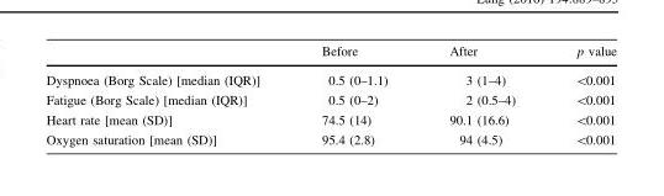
<table><thead><tr><td></td><td>Before</td><td>After</td><td>p value</td></tr></thead><tbody><tr><td>Dyspnoea (Borg Scale) [median (IQR)]</td><td>0.5 (0–1.1)</td><td>3 (1–4)</td><td>&lt;0.001</td></tr><tr><td>Fatigue (Borg Scale) [median (IQR)]</td><td>0.5 (0–2)</td><td>2 (0.5–4)</td><td>&lt;0.001</td></tr><tr><td>Heart rate [mean (SD)]</td><td>74.5 (14)</td><td>90.1 (16.6)</td><td>&lt;0.001</td></tr><tr><td>Oxygen saturation [mean (SD)]</td><td>95.4 (2.8)</td><td>94 (4.5)</td><td>&lt;0.001</td></tr></tbody></table>